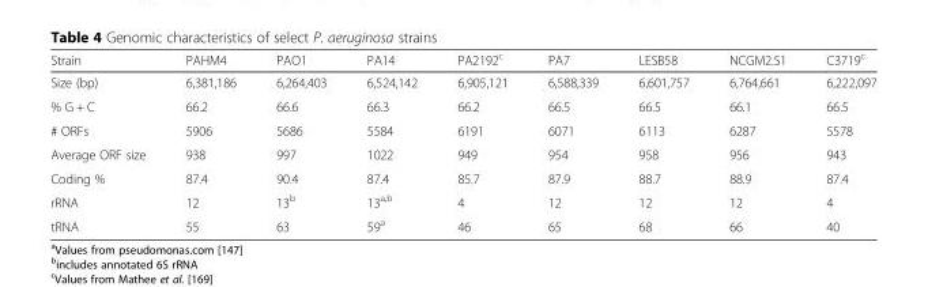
<table><thead><tr><td>Strain</td><td>PAHM4</td><td>PAO1</td><td>PA14</td><td>PA2192<sup>c</sup></td><td>PA7</td><td>LESB58</td><td>NCGM2.S1</td><td>C3719<sup>c</sup></td></tr></thead><tbody><tr><td>Size (bp)</td><td>6,381,186</td><td>6,264,403</td><td>6,524,142</td><td>6,905,121</td><td>6,588,339</td><td>6,601,757</td><td>6,764,661</td><td>6,222,097</td></tr><tr><td>% G + C</td><td>66.2</td><td>66.6</td><td>66.3</td><td>66.2</td><td>66.5</td><td>66.5</td><td>66.1</td><td>66.5</td></tr><tr><td># ORFs</td><td>5906</td><td>5686</td><td>5584</td><td>6191</td><td>6071</td><td>6113</td><td>6287</td><td>5578</td></tr><tr><td>Average ORF size</td><td>938</td><td>997</td><td>1022</td><td>949</td><td>954</td><td>958</td><td>956</td><td>943</td></tr><tr><td>Coding %</td><td>87.4</td><td>90.4</td><td>87.4</td><td>85.7</td><td>87.9</td><td>88.7</td><td>88.9</td><td>87.4</td></tr><tr><td>rRNA</td><td>12</td><td>13<sup>b</sup></td><td>13<sup>a,b</sup></td><td>4</td><td>12</td><td>12</td><td>12</td><td>4</td></tr><tr><td>tRNA</td><td>55</td><td>63</td><td>59<sup>a</sup></td><td>46</td><td>65</td><td>68</td><td>66</td><td>40</td></tr></tbody></table>